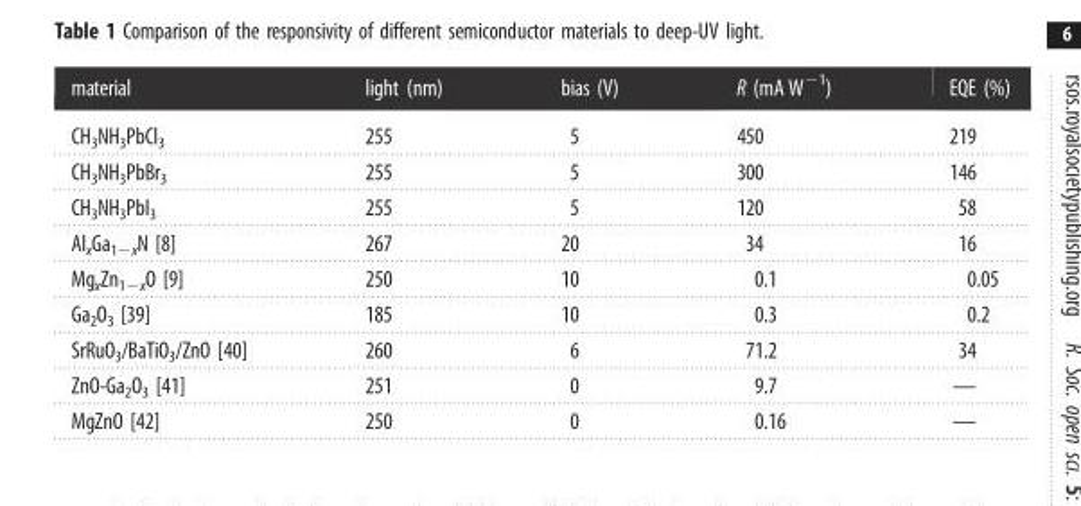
<table><thead><tr><td>material</td><td>light (nm)</td><td>bias (V)</td><td>R (mA W<sup>−1</sup>)</td><td>EQE (%)</td></tr></thead><tbody><tr><td>CH<sub>3</sub>NH<sub>3</sub>PbCl<sub>3</sub></td><td>255</td><td>5</td><td>450</td><td>219</td></tr><tr><td>CH<sub>3</sub>NH<sub>3</sub>PbBr<sub>3</sub></td><td>255</td><td>5</td><td>300</td><td>146</td></tr><tr><td>CH<sub>3</sub>NH<sub>3</sub>PbI<sub>3</sub></td><td>255</td><td>5</td><td>120</td><td>58</td></tr><tr><td>Al<sub>x</sub>Ga<sub>1−x</sub>N [8]</td><td>267</td><td>20</td><td>34</td><td>16</td></tr><tr><td>Mg<sub>x</sub>Zn<sub>1−x</sub>O [9]</td><td>250</td><td>10</td><td>0.1</td><td>0.05</td></tr><tr><td>Ga<sub>2</sub>O<sub>3</sub> [39]</td><td>185</td><td>10</td><td>0.3</td><td>0.2</td></tr><tr><td>SrRuO<sub>3</sub>/BaTiO<sub>3</sub>/ZnO [40]</td><td>260</td><td>6</td><td>71.2</td><td>34</td></tr><tr><td>ZnO-Ga<sub>2</sub>O<sub>3</sub> [41]</td><td>251</td><td>0</td><td>9.7</td><td>—</td></tr><tr><td>MgZnO [42]</td><td>250</td><td>0</td><td>0.16</td><td>—</td></tr></tbody></table>